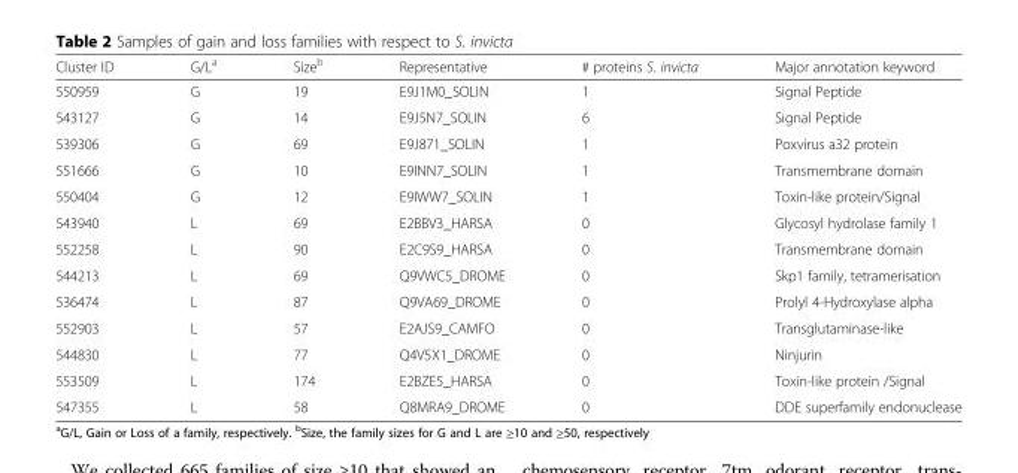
<table><thead><tr><td>Cluster ID</td><td>G/L<sup>a</sup></td><td>Size<sup>b</sup></td><td>Representative</td><td># proteins S. invicta</td><td>Major annotation keyword</td></tr></thead><tbody><tr><td>550959</td><td>G</td><td>19</td><td>E9J1M0_SOLIN</td><td>1</td><td>Signal Peptide</td></tr><tr><td>543127</td><td>G</td><td>14</td><td>E9J5N7_SOLIN</td><td>6</td><td>Signal Peptide</td></tr><tr><td>539306</td><td>G</td><td>69</td><td>E9J871_SOLIN</td><td>1</td><td>Poxvirus a32 protein</td></tr><tr><td>551666</td><td>G</td><td>10</td><td>E9INN7_SOLIN</td><td>1</td><td>Transmembrane domain</td></tr><tr><td>550404</td><td>G</td><td>12</td><td>E9IWW7_SOLIN</td><td>1</td><td>Toxin-like protein/Signal</td></tr><tr><td>543940</td><td>L</td><td>69</td><td>E2BBV3_HARSA</td><td>0</td><td>Glycosyl hydrolase family 1</td></tr><tr><td>552258</td><td>L</td><td>90</td><td>E2C9S9_HARSA</td><td>0</td><td>Transmembrane domain</td></tr><tr><td>544213</td><td>L</td><td>69</td><td>Q9VWC5_DROME</td><td>0</td><td>Skp1 family, tetramerisation</td></tr><tr><td>536474</td><td>L</td><td>87</td><td>Q9VA69_DROME</td><td>0</td><td>Prolyl 4-Hydroxylase alpha</td></tr><tr><td>552903</td><td>L</td><td>57</td><td>E2AJS9_CAMFO</td><td>0</td><td>Transglutaminase-like</td></tr><tr><td>544830</td><td>L</td><td>77</td><td>Q4V5X1_DROME</td><td>0</td><td>Ninjurin</td></tr><tr><td>553509</td><td>L</td><td>174</td><td>E2BZE5_HARSA</td><td>0</td><td>Toxin-like protein /Signal</td></tr><tr><td>547355</td><td>L</td><td>58</td><td>Q8MRA9_DROME</td><td>0</td><td>DDE superfamily endonuclease</td></tr></tbody></table>